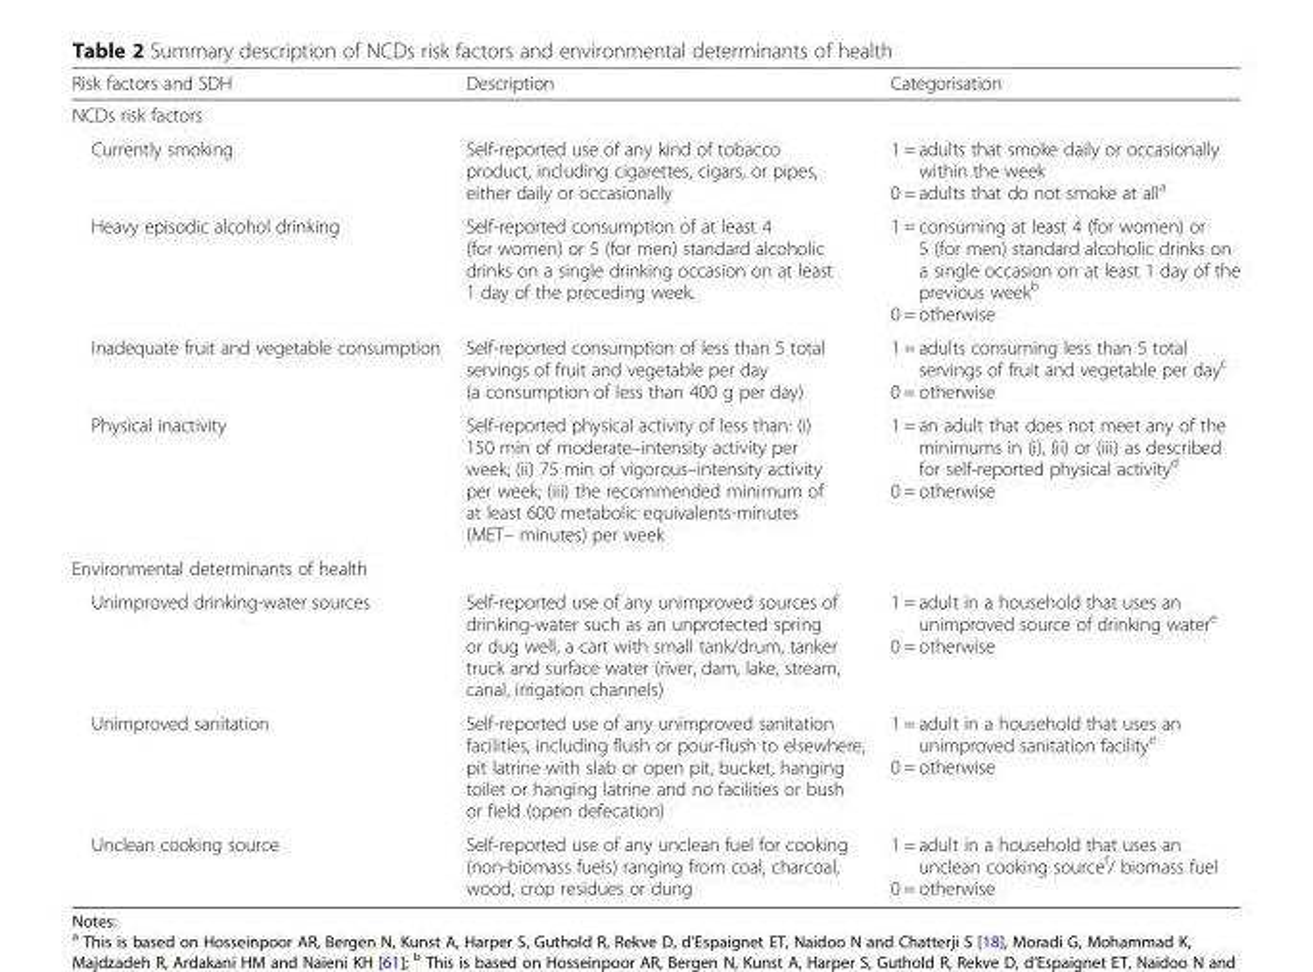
<table><thead><tr><td>Risk factors and SDH</td><td>Description</td><td>Categorisation</td></tr></thead><tbody><tr><td colspan="3">NCDs risk factors</td></tr><tr><td>Currently smoking</td><td>Self-reported use of any kind of tobacco product, including cigarettes, cigars, or pipes, either daily or occasionally</td><td>1 = adults that smoke daily or occasionally within the week 0 = adults that do not smoke at all<sup>a</sup></td></tr><tr><td>Heavy episodic alcohol drinking</td><td>Self-reported consumption of at least 4 (for women) or 5 (for men) standard alcoholic drinks on a single drinking occasion on at least 1 day of the preceding week.</td><td>1 = consuming at least 4 (for women) or 5 (for men) standard alcoholic drinks on a single occasion on at least 1 day of the previous week<sup>b</sup> 0 = otherwise</td></tr><tr><td>Inadequate fruit and vegetable consumption</td><td>Self-reported consumption of less than 5 total servings of fruit and vegetable per day (a consumption of less than 400 g per day)</td><td>1 = adults consuming less than 5 total servings of fruit and vegetable per day<sup>c</sup> 0 = otherwise</td></tr><tr><td>Physical inactivity</td><td>Self-reported physical activity of less than: (i) 150 min of moderate–intensity activity per week; (ii) 75 min of vigorous–intensity activity per week; (iii) the recommended minimum of at least 600 metabolic equivalents-minutes (MET– minutes) per week</td><td>1 = an adult that does not meet any of the minimums in (i), (ii) or (iii) as described for self-reported physical activity<sup>d</sup> 0 = otherwise</td></tr><tr><td colspan="3">Environmental determinants of health</td></tr><tr><td>Unimproved drinking-water sources</td><td>Self-reported use of any unimproved sources of drinking-water such as an unprotected spring or dug well, a cart with small tank/drum, tanker truck and surface water (river, dam, lake, stream, canal, irrigation channels)</td><td>1 = adult in a household that uses an unimproved source of drinking water<sup>e</sup> 0 = otherwise</td></tr><tr><td>Unimproved sanitation</td><td>Self-reported use of any unimproved sanitation facilities, including flush or pour-flush to elsewhere, pit latrine with slab or open pit, bucket, hanging toilet or hanging latrine and no facilities or bush or field (open defecation)</td><td>1 = adult in a household that uses an unimproved sanitation facility<sup>e</sup> 0 = otherwise</td></tr><tr><td>Unclean cooking source</td><td>Self-reported use of any unclean fuel for cooking (non-biomass fuels) ranging from coal, charcoal, wood, crop residues or dung</td><td>1 = adult in a household that uses an unclean cooking source<sup>f</sup>/ biomass fuel 0 = otherwise</td></tr></tbody></table>